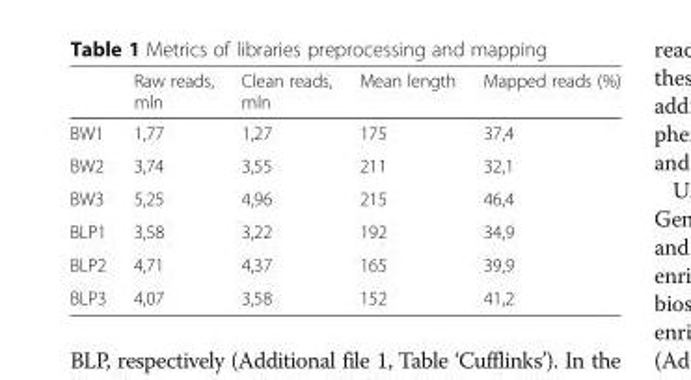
<table><thead><tr><td></td><td>Raw reads, mln</td><td>Clean reads, mln</td><td>Mean length</td><td>Mapped reads (%)</td></tr></thead><tbody><tr><td>BW1</td><td>1,77</td><td>1,27</td><td>175</td><td>37,4</td></tr><tr><td>BW2</td><td>3,74</td><td>3,55</td><td>211</td><td>32,1</td></tr><tr><td>BW3</td><td>5,25</td><td>4,96</td><td>215</td><td>46,4</td></tr><tr><td>BLP1</td><td>3,58</td><td>3,22</td><td>192</td><td>34,9</td></tr><tr><td>BLP2</td><td>4,71</td><td>4,37</td><td>165</td><td>39,9</td></tr><tr><td>BLP3</td><td>4,07</td><td>3,58</td><td>152</td><td>41,2</td></tr></tbody></table>